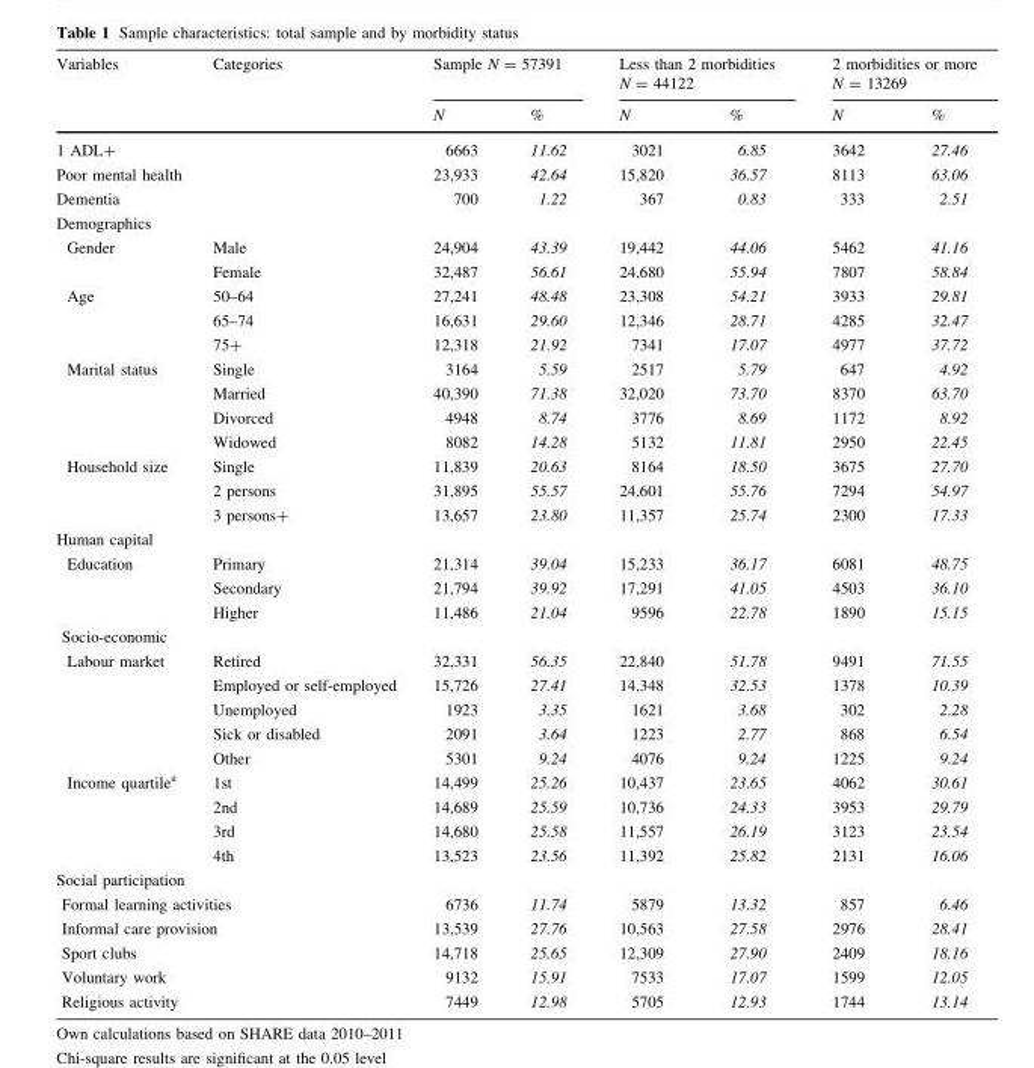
<table><thead><tr><td rowspan="2">Variables</td><td rowspan="2">Categories</td><td colspan="2">Sample N = 57391</td><td colspan="2">Less than 2 morbidities N = 44122</td><td colspan="2">2 morbidities or more N = 13269</td></tr><tr><td>N</td><td>%</td><td>N</td><td>%</td><td>N</td><td>%</td></tr></thead><tbody><tr><td colspan="2">1 ADL+</td><td>6663</td><td>11.62</td><td>3021</td><td>6.85</td><td>3642</td><td>27.46</td></tr><tr><td colspan="2">Poor mental health</td><td>23,933</td><td>42.64</td><td>15,820</td><td>36.57</td><td>8113</td><td>63.06</td></tr><tr><td colspan="2">Dementia</td><td>700</td><td>1.22</td><td>367</td><td>0.83</td><td>333</td><td>2.51</td></tr><tr><td colspan="8">Demographics</td></tr><tr><td rowspan="2">Gender</td><td>Male</td><td>24,904</td><td>43.39</td><td>19,442</td><td>44.06</td><td>5462</td><td>41.16</td></tr><tr><td>Female</td><td>32,487</td><td>56.61</td><td>24,680</td><td>55.94</td><td>7807</td><td>58.84</td></tr><tr><td rowspan="3">Age</td><td>50–64</td><td>27,241</td><td>48.48</td><td>23,308</td><td>54.21</td><td>3933</td><td>29.81</td></tr><tr><td>65–74</td><td>16,631</td><td>29.60</td><td>12,346</td><td>28.71</td><td>4285</td><td>32.47</td></tr><tr><td>75+</td><td>12,318</td><td>21.92</td><td>7341</td><td>17.07</td><td>4977</td><td>37.72</td></tr><tr><td rowspan="4">Marital status</td><td>Single</td><td>3164</td><td>5.59</td><td>2517</td><td>5.79</td><td>647</td><td>4.92</td></tr><tr><td>Married</td><td>40,390</td><td>71.38</td><td>32,020</td><td>73.70</td><td>8370</td><td>63.70</td></tr><tr><td>Divorced</td><td>4948</td><td>8.74</td><td>3776</td><td>8.69</td><td>1172</td><td>8.92</td></tr><tr><td>Widowed</td><td>8082</td><td>14.28</td><td>5132</td><td>11.81</td><td>2950</td><td>22.45</td></tr><tr><td rowspan="3">Household size</td><td>Single</td><td>11,839</td><td>20.63</td><td>8164</td><td>18.50</td><td>3675</td><td>27.70</td></tr><tr><td>2 persons</td><td>31,895</td><td>55.57</td><td>24,601</td><td>55.76</td><td>7294</td><td>54.97</td></tr><tr><td>3 persons+</td><td>13,657</td><td>23.80</td><td>11,357</td><td>25.74</td><td>2300</td><td>17.33</td></tr><tr><td colspan="8">Human capital</td></tr><tr><td rowspan="3">Education</td><td>Primary</td><td>21,314</td><td>39.04</td><td>15,233</td><td>36.17</td><td>6081</td><td>48.75</td></tr><tr><td>Secondary</td><td>21,794</td><td>39.92</td><td>17,291</td><td>41.05</td><td>4503</td><td>36.10</td></tr><tr><td>Higher</td><td>11,486</td><td>21.04</td><td>9596</td><td>22.78</td><td>1890</td><td>15.15</td></tr><tr><td colspan="8">Socio-economic</td></tr><tr><td rowspan="5">Labour market</td><td>Retired</td><td>32,331</td><td>56.35</td><td>22,840</td><td>51.78</td><td>9491</td><td>71.55</td></tr><tr><td>Employed or self-employed</td><td>15,726</td><td>27.41</td><td>14,348</td><td>32.53</td><td>1378</td><td>10.39</td></tr><tr><td>Unemployed</td><td>1923</td><td>3.35</td><td>1621</td><td>3.68</td><td>302</td><td>2.28</td></tr><tr><td>Sick or disabled</td><td>2091</td><td>3.64</td><td>1223</td><td>2.77</td><td>868</td><td>6.54</td></tr><tr><td>Other</td><td>5301</td><td>9.24</td><td>4076</td><td>9.24</td><td>1225</td><td>9.24</td></tr><tr><td rowspan="4">Income quartile<sup>a</sup></td><td>1st</td><td>14,499</td><td>25.26</td><td>10,437</td><td>23.65</td><td>4062</td><td>30.61</td></tr><tr><td>2nd</td><td>14,689</td><td>25.59</td><td>10,736</td><td>24.33</td><td>3953</td><td>29.79</td></tr><tr><td>3rd</td><td>14,680</td><td>25.58</td><td>11,557</td><td>26.19</td><td>3123</td><td>23.54</td></tr><tr><td>4th</td><td>13,523</td><td>23.56</td><td>11,392</td><td>25.82</td><td>2131</td><td>16.06</td></tr><tr><td colspan="8">Social participation</td></tr><tr><td colspan="2">Formal learning activities</td><td>6736</td><td>11.74</td><td>5879</td><td>13.32</td><td>857</td><td>6.46</td></tr><tr><td colspan="2">Informal care provision</td><td>13,539</td><td>27.76</td><td>10,563</td><td>27.58</td><td>2976</td><td>28.41</td></tr><tr><td colspan="2">Sport clubs</td><td>14,718</td><td>25.65</td><td>12,309</td><td>27.90</td><td>2409</td><td>18.16</td></tr><tr><td colspan="2">Voluntary work</td><td>9132</td><td>15.91</td><td>7533</td><td>17.07</td><td>1599</td><td>12.05</td></tr><tr><td colspan="2">Religious activity</td><td>7449</td><td>12.98</td><td>5705</td><td>12.93</td><td>1744</td><td>13.14</td></tr></tbody></table>